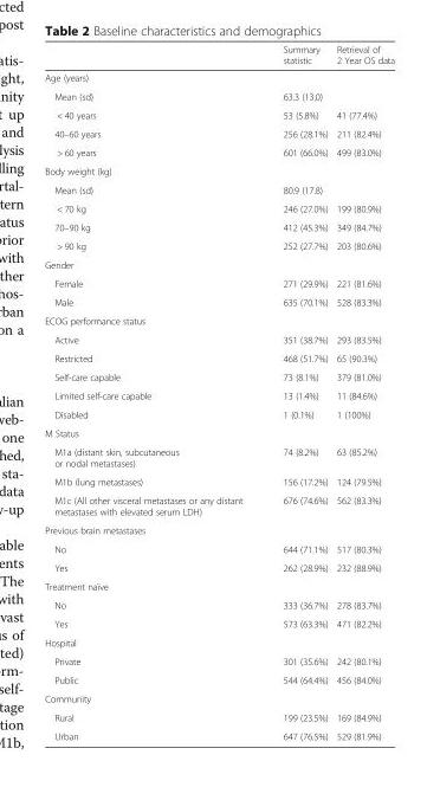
<table><thead><tr><td></td><td>Summary statistic</td><td>Retrieval of 2 Year OS data</td></tr></thead><tbody><tr><td colspan="3">Age (years)</td></tr><tr><td>Mean (sd)</td><td>63.3 (13.0)</td><td></td></tr><tr><td>&lt; 40 years</td><td>53 (5.8%)</td><td>41 (77.4%)</td></tr><tr><td>40–60 years</td><td>256 (28.1%)</td><td>211 (82.4%)</td></tr><tr><td>&gt; 60 years</td><td>601 (66.0%)</td><td>499 (83.0%)</td></tr><tr><td colspan="3">Body weight (kg)</td></tr><tr><td>Mean (sd)</td><td>80.9 (17.8)</td><td></td></tr><tr><td>&lt; 70 kg</td><td>246 (27.0%)</td><td>199 (80.9%)</td></tr><tr><td>70–90 kg</td><td>412 (45.3%)</td><td>349 (84.7%)</td></tr><tr><td>&gt; 90 kg</td><td>252 (27.7%)</td><td>203 (80.6%)</td></tr><tr><td colspan="3">Gender</td></tr><tr><td>Female</td><td>271 (29.9%)</td><td>221 (81.6%)</td></tr><tr><td>Male</td><td>635 (70.1%)</td><td>528 (83.3%)</td></tr><tr><td colspan="3">ECOG performance status</td></tr><tr><td>Active</td><td>351 (38.7%)</td><td>293 (83.5%)</td></tr><tr><td>Restricted</td><td>468 (51.7%)</td><td>65 (90.3%)</td></tr><tr><td>Self-care capable</td><td>73 (8.1%)</td><td>379 (81.0%)</td></tr><tr><td>Limited self-care capable</td><td>13 (1.4%)</td><td>11 (84.6%)</td></tr><tr><td>Disabled</td><td>1 (0.1%)</td><td>1 (100%)</td></tr><tr><td colspan="3">M Status</td></tr><tr><td>M1a (distant skin, subcutaneous or nodal metastases)</td><td>74 (8.2%)</td><td>63 (85.2%)</td></tr><tr><td>M1b (lung metastases)</td><td>156 (17.2%)</td><td>124 (79.5%)</td></tr><tr><td>M1c (All other visceral metastases or any distant metastases with elevated serum LDH)</td><td>676 (74.6%)</td><td>562 (83.3%)</td></tr><tr><td colspan="3">Previous brain metastases</td></tr><tr><td>No</td><td>644 (71.1%)</td><td>517 (80.3%)</td></tr><tr><td>Yes</td><td>262 (28.9%)</td><td>232 (88.9%)</td></tr><tr><td colspan="3">Treatment naïve</td></tr><tr><td>No</td><td>333 (36.7%)</td><td>278 (83.7%)</td></tr><tr><td>Yes</td><td>573 (63.3%)</td><td>471 (82.2%)</td></tr><tr><td colspan="3">Hospital</td></tr><tr><td>Private</td><td>301 (35.6%)</td><td>242 (80.1%)</td></tr><tr><td>Public</td><td>544 (64.4%)</td><td>456 (84.0%)</td></tr><tr><td colspan="3">Community</td></tr><tr><td>Rural</td><td>199 (23.5%)</td><td>169 (84.9%)</td></tr><tr><td>Urban</td><td>647 (76.5%)</td><td>529 (81.9%)</td></tr></tbody></table>